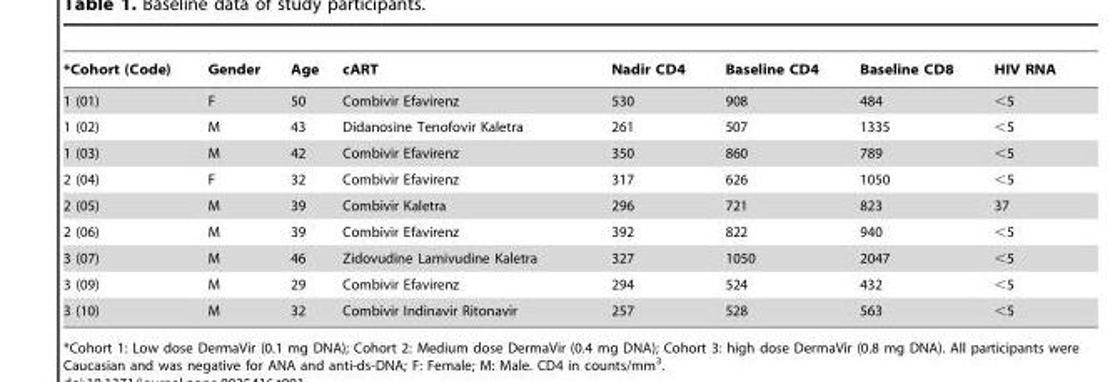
<table><thead><tr><td>*Cohort (Code)</td><td>Gender</td><td>Age</td><td>cART</td><td>Nadir CD4</td><td>Baseline CD4</td><td>Baseline CD8</td><td>HIV RNA</td></tr></thead><tbody><tr><td>1 (01)</td><td>F</td><td>50</td><td>Combivir Efavirenz</td><td>530</td><td>908</td><td>484</td><td>&lt;5</td></tr><tr><td>1 (02)</td><td>M</td><td>43</td><td>Didanosine Tenofovir Kaletra</td><td>261</td><td>507</td><td>1335</td><td>&lt;5</td></tr><tr><td>1 (03)</td><td>M</td><td>42</td><td>Combivir Efavirenz</td><td>350</td><td>860</td><td>789</td><td>&lt;5</td></tr><tr><td>2 (04)</td><td>F</td><td>32</td><td>Combivir Efavirenz</td><td>317</td><td>626</td><td>1050</td><td>&lt;5</td></tr><tr><td>2 (05)</td><td>M</td><td>39</td><td>Combivir Kaletra</td><td>296</td><td>721</td><td>823</td><td>37</td></tr><tr><td>2 (06)</td><td>M</td><td>39</td><td>Combivir Efavirenz</td><td>392</td><td>822</td><td>940</td><td>&lt;5</td></tr><tr><td>3 (07)</td><td>M</td><td>46</td><td>Zidovudine Lamivudine Kaletra</td><td>327</td><td>1050</td><td>2047</td><td>&lt;5</td></tr><tr><td>3 (09)</td><td>M</td><td>29</td><td>Combivir Efavirenz</td><td>294</td><td>524</td><td>432</td><td>&lt;5</td></tr><tr><td>3 (10)</td><td>M</td><td>32</td><td>Combivir Indinavir Ritonavir</td><td>257</td><td>528</td><td>563</td><td>&lt;5</td></tr></tbody></table>